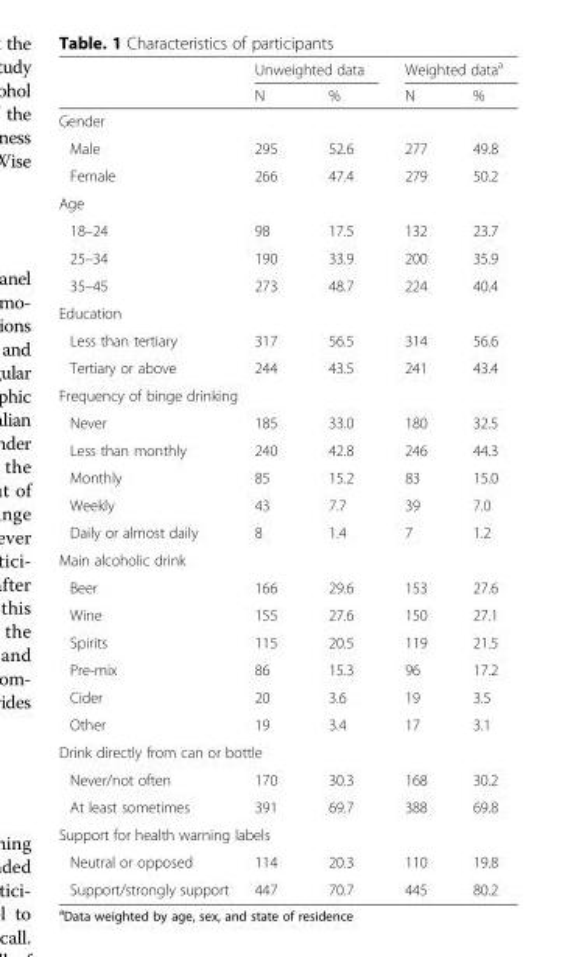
<table><thead><tr><td rowspan="2"></td><td colspan="2">Unweighted data</td><td colspan="2">Weighted data<sup>a</sup></td></tr><tr><td>N</td><td>%</td><td>N</td><td>%</td></tr></thead><tbody><tr><td colspan="5">Gender</td></tr><tr><td>Male</td><td>295</td><td>52.6</td><td>277</td><td>49.8</td></tr><tr><td>Female</td><td>266</td><td>47.4</td><td>279</td><td>50.2</td></tr><tr><td colspan="5">Age</td></tr><tr><td>18–24</td><td>98</td><td>17.5</td><td>132</td><td>23.7</td></tr><tr><td>25–34</td><td>190</td><td>33.9</td><td>200</td><td>35.9</td></tr><tr><td>35–45</td><td>273</td><td>48.7</td><td>224</td><td>40.4</td></tr><tr><td colspan="5">Education</td></tr><tr><td>Less than tertiary</td><td>317</td><td>56.5</td><td>314</td><td>56.6</td></tr><tr><td>Tertiary or above</td><td>244</td><td>43.5</td><td>241</td><td>43.4</td></tr><tr><td colspan="5">Frequency of binge drinking</td></tr><tr><td>Never</td><td>185</td><td>33.0</td><td>180</td><td>32.5</td></tr><tr><td>Less than monthly</td><td>240</td><td>42.8</td><td>246</td><td>44.3</td></tr><tr><td>Monthly</td><td>85</td><td>15.2</td><td>83</td><td>15.0</td></tr><tr><td>Weekly</td><td>43</td><td>7.7</td><td>39</td><td>7.0</td></tr><tr><td>Daily or almost daily</td><td>8</td><td>1.4</td><td>7</td><td>1.2</td></tr><tr><td colspan="5">Main alcoholic drink</td></tr><tr><td>Beer</td><td>166</td><td>29.6</td><td>153</td><td>27.6</td></tr><tr><td>Wine</td><td>155</td><td>27.6</td><td>150</td><td>27.1</td></tr><tr><td>Spirits</td><td>115</td><td>20.5</td><td>119</td><td>21.5</td></tr><tr><td>Pre-mix</td><td>86</td><td>15.3</td><td>96</td><td>17.2</td></tr><tr><td>Cider</td><td>20</td><td>3.6</td><td>19</td><td>3.5</td></tr><tr><td>Other</td><td>19</td><td>3.4</td><td>17</td><td>3.1</td></tr><tr><td colspan="5">Drink directly from can or bottle</td></tr><tr><td>Never/not often</td><td>170</td><td>30.3</td><td>168</td><td>30.2</td></tr><tr><td>At least sometimes</td><td>391</td><td>69.7</td><td>388</td><td>69.8</td></tr><tr><td colspan="5">Support for health warning labels</td></tr><tr><td>Neutral or opposed</td><td>114</td><td>20.3</td><td>110</td><td>19.8</td></tr><tr><td>Support/strongly support</td><td>447</td><td>70.7</td><td>445</td><td>80.2</td></tr></tbody></table>